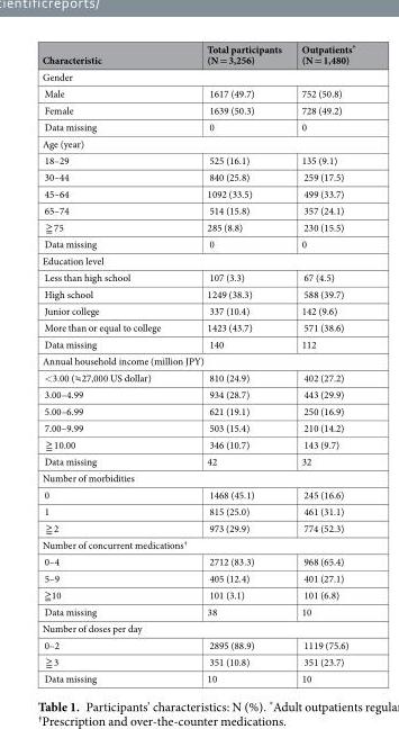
<table><thead><tr><td>Characteristic</td><td>Total participants (N = 3,256)</td><td>Outpatients* (N = 1,480)</td></tr></thead><tbody><tr><td colspan="3">Gender</td></tr><tr><td>Male</td><td>1617 (49.7)</td><td>752 (50.8)</td></tr><tr><td>Female</td><td>1639 (50.3)</td><td>728 (49.2)</td></tr><tr><td>Data missing</td><td>0</td><td>0</td></tr><tr><td colspan="3">Age (year)</td></tr><tr><td>18–29</td><td>525 (16.1)</td><td>135 (9.1)</td></tr><tr><td>30–44</td><td>840 (25.8)</td><td>259 (17.5)</td></tr><tr><td>45–64</td><td>1092 (33.5)</td><td>499 (33.7)</td></tr><tr><td>65–74</td><td>514 (15.8)</td><td>357 (24.1)</td></tr><tr><td>≧ 75</td><td>285 (8.8)</td><td>230 (15.5)</td></tr><tr><td>Data missing</td><td>0</td><td>0</td></tr><tr><td colspan="3">Education level</td></tr><tr><td>Less than high school</td><td>107 (3.3)</td><td>67 (4.5)</td></tr><tr><td>High school</td><td>1249 (38.3)</td><td>588 (39.7)</td></tr><tr><td>Junior college</td><td>337 (10.4)</td><td>142 (9.6)</td></tr><tr><td>More than or equal to college</td><td>1423 (43.7)</td><td>571 (38.6)</td></tr><tr><td>Data missing</td><td>140</td><td>112</td></tr><tr><td colspan="3">Annual household income (million JPY)</td></tr><tr><td>&lt;3.00 (≒27,000 US dollar)</td><td>810 (24.9)</td><td>402 (27.2)</td></tr><tr><td>3.00–4.99</td><td>934 (28.7)</td><td>443 (29.9)</td></tr><tr><td>5.00–6.99</td><td>621 (19.1)</td><td>250 (16.9)</td></tr><tr><td>7.00–9.99</td><td>503 (15.4)</td><td>210 (14.2)</td></tr><tr><td>≧ 10.00</td><td>346 (10.7)</td><td>143 (9.7)</td></tr><tr><td>Data missing</td><td>42</td><td>32</td></tr><tr><td colspan="3">Number of morbidities</td></tr><tr><td>0</td><td>1468 (45.1)</td><td>245 (16.6)</td></tr><tr><td>1</td><td>815 (25.0)</td><td>461 (31.1)</td></tr><tr><td>≧ 2</td><td>973 (29.9)</td><td>774 (52.3)</td></tr><tr><td colspan="3">Number of concurrent medications<sup>†</sup></td></tr><tr><td>0–4</td><td>2712 (83.3)</td><td>968 (65.4)</td></tr><tr><td>5–9</td><td>405 (12.4)</td><td>401 (27.1)</td></tr><tr><td>≧10</td><td>101 (3.1)</td><td>101 (6.8)</td></tr><tr><td>Data missing</td><td>38</td><td>10</td></tr><tr><td colspan="3">Number of doses per day</td></tr><tr><td>0–2</td><td>2895 (88.9)</td><td>1119 (75.6)</td></tr><tr><td>≧ 3</td><td>351 (10.8)</td><td>351 (23.7)</td></tr><tr><td>Data missing</td><td>10</td><td>10</td></tr></tbody></table>